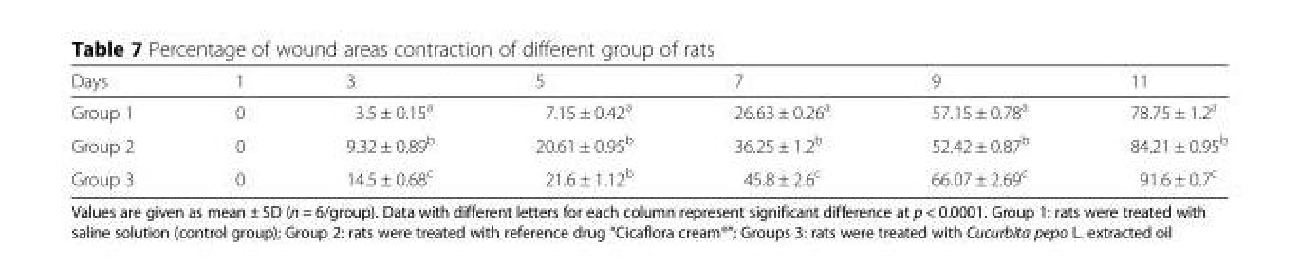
<table><thead><tr><td>Days</td><td>1</td><td>3</td><td>5</td><td>7</td><td>9</td><td>11</td></tr></thead><tbody><tr><td>Group 1</td><td>0</td><td>3.5 ± 0.15a</td><td>7.15 ± 0.42a</td><td>26.63 ± 0.26a</td><td>57.15 ± 0.78a</td><td>78.75 ± 1.2a</td></tr><tr><td>Group 2</td><td>0</td><td>9.32 ± 0.89b</td><td>20.61 ± 0.95b</td><td>36.25 ± 1.2b</td><td>52.42 ± 0.87b</td><td>84.21 ± 0.95b</td></tr><tr><td>Group 3</td><td>0</td><td>14.5 ± 0.68c</td><td>21.6 ± 1.12b</td><td>45.8 ± 2.6c</td><td>66.07 ± 2.69c</td><td>91.6 ± 0.7c</td></tr></tbody></table>